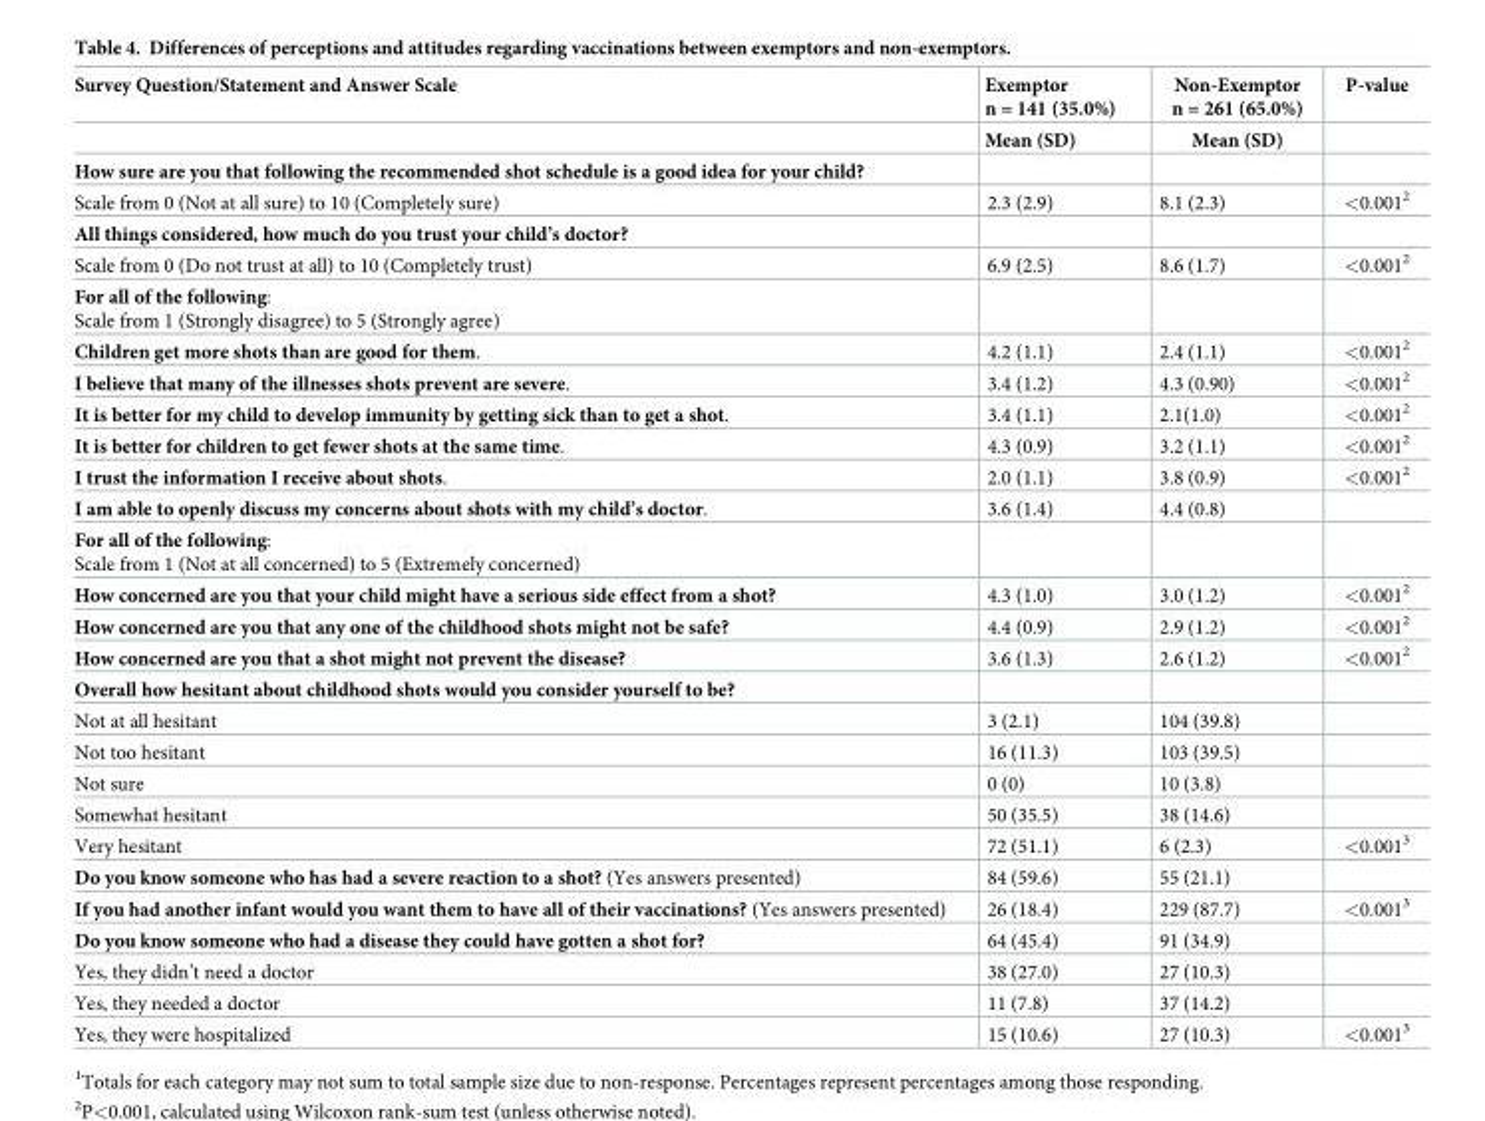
<table><thead><tr><td rowspan="2">Survey Question/Statement and Answer Scale</td><td rowspan="2">Exemptor n = 141 (35.0%) Mean (SD)</td><td rowspan="2">Non-Exemptor n = 261 (65.0%) Mean (SD)</td><td rowspan="2">P-value</td></tr><tr></tr></thead><tbody><tr><td colspan="4">How sure are you that following the recommended shot schedule is a good idea for your child?</td></tr><tr><td>Scale from 0 (Not at all sure) to 10 (Completely sure)</td><td>2.3 (2.9)</td><td>8.1 (2.3)</td><td>&lt;0.001<sup>2</sup></td></tr><tr><td colspan="4">All things considered, how much do you trust your child’s doctor?</td></tr><tr><td>Scale from 0 (Do not trust at all) to 10 (Completely trust)</td><td>6.9 (2.5)</td><td>8.6 (1.7)</td><td>&lt;0.001<sup>2</sup></td></tr><tr><td colspan="4">For all of the following: Scale from 1 (Strongly disagree) to 5 (Strongly agree)</td></tr><tr><td>Children get more shots than are good for them.</td><td>4.2 (1.1)</td><td>2.4 (1.1)</td><td>&lt;0.001<sup>2</sup></td></tr><tr><td>I believe that many of the illnesses shots prevent are severe.</td><td>3.4 (1.2)</td><td>4.3 (0.90)</td><td>&lt;0.001<sup>2</sup></td></tr><tr><td>It is better for my child to develop immunity by getting sick than to get a shot.</td><td>3.4 (1.1)</td><td>2.1(1.0)</td><td>&lt;0.001<sup>2</sup></td></tr><tr><td>It is better for children to get fewer shots at the same time.</td><td>4.3 (0.9)</td><td>3.2 (1.1)</td><td>&lt;0.001<sup>2</sup></td></tr><tr><td>I trust the information I receive about shots.</td><td>2.0 (1.1)</td><td>3.8 (0.9)</td><td>&lt;0.001<sup>2</sup></td></tr><tr><td>I am able to openly discuss my concerns about shots with my child’s doctor.</td><td>3.6 (1.4)</td><td>4.4 (0.8)</td><td></td></tr><tr><td colspan="4">For all of the following: Scale from 1 (Not at all concerned) to 5 (Extremely concerned)</td></tr><tr><td>How concerned are you that your child might have a serious side effect from a shot?</td><td>4.3 (1.0)</td><td>3.0 (1.2)</td><td>&lt;0.001<sup>2</sup></td></tr><tr><td>How concerned are you that any one of the childhood shots might not be safe?</td><td>4.4 (0.9)</td><td>2.9 (1.2)</td><td>&lt;0.001<sup>2</sup></td></tr><tr><td>How concerned are you that a shot might not prevent the disease?</td><td>3.6 (1.3)</td><td>2.6 (1.2)</td><td>&lt;0.001<sup>2</sup></td></tr><tr><td colspan="4">Overall how hesitant about childhood shots would you consider yourself to be?</td></tr><tr><td>Not at all hesitant</td><td>3 (2.1)</td><td>104 (39.8)</td><td></td></tr><tr><td>Not too hesitant</td><td>16 (11.3)</td><td>103 (39.5)</td><td></td></tr><tr><td>Not sure</td><td>0 (0)</td><td>10 (3.8)</td><td></td></tr><tr><td>Somewhat hesitant</td><td>50 (35.5)</td><td>38 (14.6)</td><td></td></tr><tr><td>Very hesitant</td><td>72 (51.1)</td><td>6 (2.3)</td><td>&lt;0.001<sup>3</sup></td></tr><tr><td>Do you know someone who has had a severe reaction to a shot? (Yes answers presented)</td><td>84 (59.6)</td><td>55 (21.1)</td><td></td></tr><tr><td>If you had another infant would you want them to have all of their vaccinations? (Yes answers presented)</td><td>26 (18.4)</td><td>229 (87.7)</td><td>&lt;0.001<sup>3</sup></td></tr><tr><td>Do you know someone who had a disease they could have gotten a shot for?</td><td>64 (45.4)</td><td>91 (34.9)</td><td></td></tr><tr><td>Yes, they didn’t need a doctor</td><td>38 (27.0)</td><td>27 (10.3)</td><td></td></tr><tr><td>Yes, they needed a doctor</td><td>11 (7.8)</td><td>37 (14.2)</td><td></td></tr><tr><td>Yes, they were hospitalized</td><td>15 (10.6)</td><td>27 (10.3)</td><td>&lt;0.001<sup>3</sup></td></tr></tbody></table>